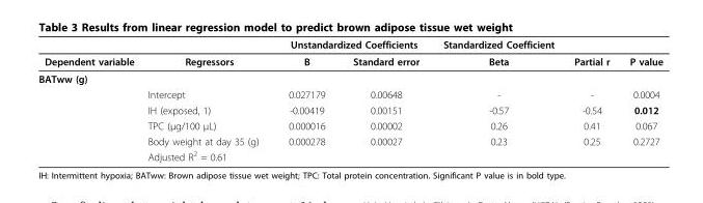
<table><thead><tr><td rowspan="2">Dependent variable</td><td rowspan="2">Regressors</td><td colspan="2">Unstandardized Coefficients</td><td rowspan="2">Standardized Coefficient Beta</td><td rowspan="2">Partial r</td><td rowspan="2">P value</td></tr><tr><td>B</td><td>Standard error</td></tr></thead><tbody><tr><td colspan="7">BATww (g)</td></tr><tr><td></td><td>Intercept</td><td>0.027179</td><td>0.00648</td><td>-</td><td>-</td><td>0.0004</td></tr><tr><td></td><td>IH (exposed, 1)</td><td>-0.00419</td><td>0.00151</td><td>-0.57</td><td>-0.54</td><td>0.012</td></tr><tr><td></td><td>TPC (μg/100 μL)</td><td>0.000016</td><td>0.00002</td><td>0.26</td><td>0.41</td><td>0.067</td></tr><tr><td></td><td>Body weight at day 35 (g)</td><td>0.000278</td><td>0.00027</td><td>0.23</td><td>0.25</td><td>0.2727</td></tr><tr><td></td><td>Adjusted R<sup>2</sup> = 0.61</td><td></td><td></td><td></td><td></td><td></td></tr></tbody></table>